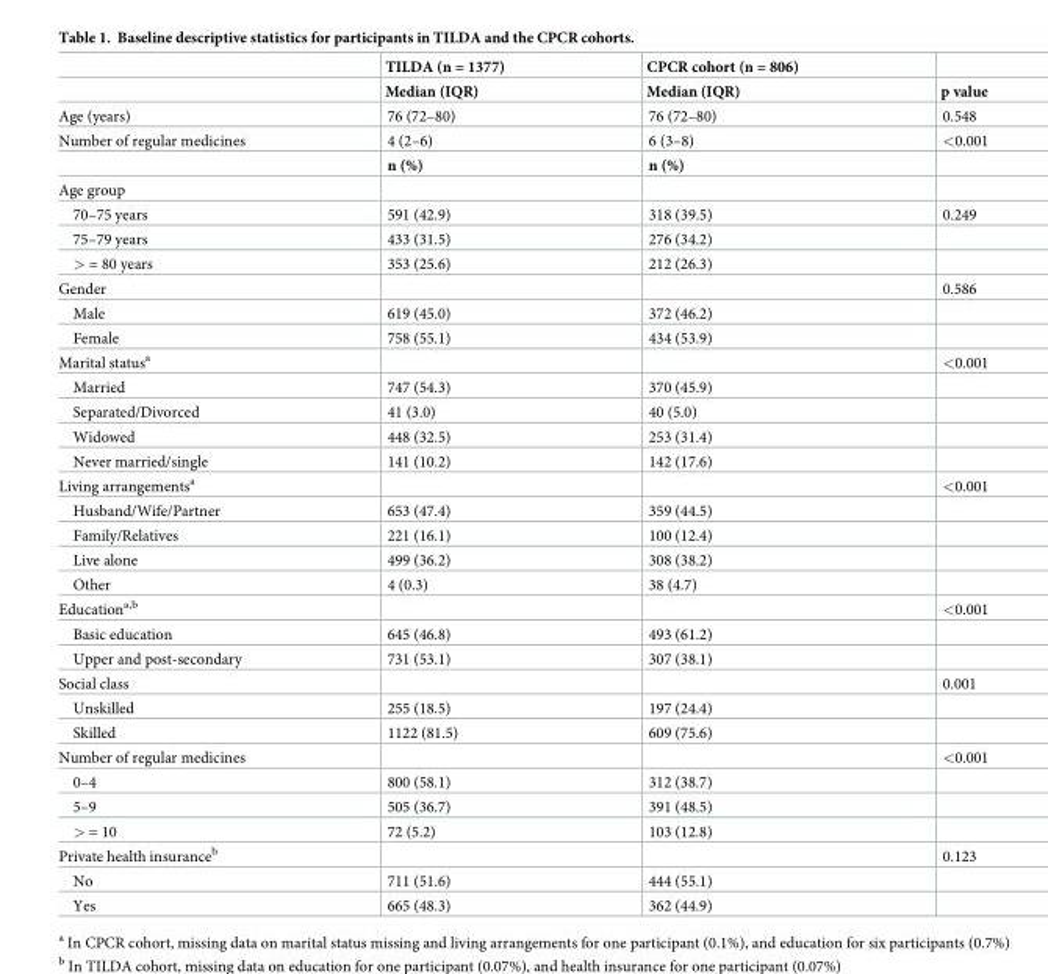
<table><thead><tr><td rowspan="2"></td><td rowspan="2">TILDA (n = 1377) Median (IQR)</td><td rowspan="2">CPCR cohort (n = 806) Median (IQR)</td><td rowspan="2">p value</td></tr><tr></tr></thead><tbody><tr><td>Age (years)</td><td>76 (72–80)</td><td>76 (72–80)</td><td>0.548</td></tr><tr><td rowspan="2">Number of regular medicines</td><td>4 (2–6)</td><td>6 (3–8)</td><td>&lt;0.001</td></tr><tr><td>n (%)</td><td>n (%)</td><td></td></tr><tr><td colspan="4">Age group</td></tr><tr><td>70–75 years</td><td>591 (42.9)</td><td>318 (39.5)</td><td>0.249</td></tr><tr><td>75–79 years</td><td>433 (31.5)</td><td>276 (34.2)</td><td></td></tr><tr><td>&gt; = 80 years</td><td>353 (25.6)</td><td>212 (26.3)</td><td></td></tr><tr><td>Gender</td><td></td><td></td><td>0.586</td></tr><tr><td>Male</td><td>619 (45.0)</td><td>372 (46.2)</td><td></td></tr><tr><td>Female</td><td>758 (55.1)</td><td>434 (53.9)</td><td></td></tr><tr><td>Marital status<sup>a</sup></td><td></td><td></td><td>&lt;0.001</td></tr><tr><td>Married</td><td>747 (54.3)</td><td>370 (45.9)</td><td></td></tr><tr><td>Separated/Divorced</td><td>41 (3.0)</td><td>40 (5.0)</td><td></td></tr><tr><td>Widowed</td><td>448 (32.5)</td><td>253 (31.4)</td><td></td></tr><tr><td>Never married/single</td><td>141 (10.2)</td><td>142 (17.6)</td><td></td></tr><tr><td>Living arrangements<sup>a</sup></td><td></td><td></td><td>&lt;0.001</td></tr><tr><td>Husband/Wife/Partner</td><td>653 (47.4)</td><td>359 (44.5)</td><td></td></tr><tr><td>Family/Relatives</td><td>221 (16.1)</td><td>100 (12.4)</td><td></td></tr><tr><td>Live alone</td><td>499 (36.2)</td><td>308 (38.2)</td><td></td></tr><tr><td>Other</td><td>4 (0.3)</td><td>38 (4.7)</td><td></td></tr><tr><td>Education<sup>a,b</sup></td><td></td><td></td><td>&lt;0.001</td></tr><tr><td>Basic education</td><td>645 (46.8)</td><td>493 (61.2)</td><td></td></tr><tr><td>Upper and post-secondary</td><td>731 (53.1)</td><td>307 (38.1)</td><td></td></tr><tr><td>Social class</td><td></td><td></td><td>0.001</td></tr><tr><td>Unskilled</td><td>255 (18.5)</td><td>197 (24.4)</td><td></td></tr><tr><td>Skilled</td><td>1122 (81.5)</td><td>609 (75.6)</td><td></td></tr><tr><td>Number of regular medicines</td><td></td><td></td><td>&lt;0.001</td></tr><tr><td>0–4</td><td>800 (58.1)</td><td>312 (38.7)</td><td></td></tr><tr><td>5–9</td><td>505 (36.7)</td><td>391 (48.5)</td><td></td></tr><tr><td>&gt; = 10</td><td>72 (5.2)</td><td>103 (12.8)</td><td></td></tr><tr><td>Private health insurance<sup>b</sup></td><td></td><td></td><td>0.123</td></tr><tr><td>No</td><td>711 (51.6)</td><td>444 (55.1)</td><td></td></tr><tr><td>Yes</td><td>665 (48.3)</td><td>362 (44.9)</td><td></td></tr></tbody></table>